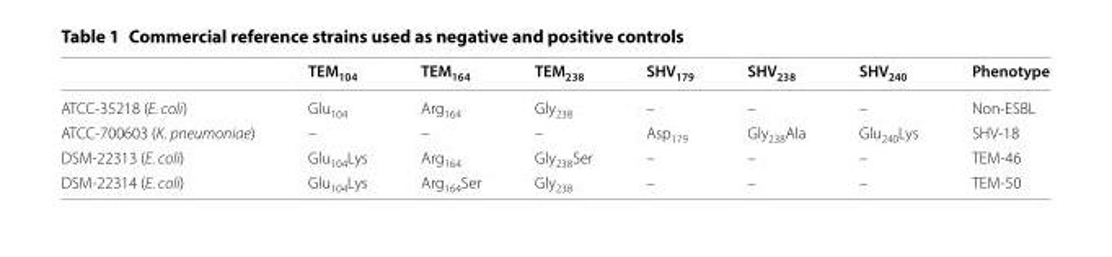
<table><thead><tr><td></td><td>TEM<sub>104</sub></td><td>TEM<sub>164</sub></td><td>TEM<sub>238</sub></td><td>SHV<sub>179</sub></td><td>SHV<sub>238</sub></td><td>SHV<sub>240</sub></td><td>Phenotype</td></tr></thead><tbody><tr><td>ATCC‑35218 (E. coli)</td><td>Glu<sub>104</sub></td><td>Arg<sub>164</sub></td><td>Gly<sub>238</sub></td><td>–</td><td>–</td><td>–</td><td>Non‑ESBL</td></tr><tr><td>ATCC‑700603 (K. pneumoniae)</td><td>–</td><td>–</td><td>–</td><td>Asp<sub>179</sub></td><td>Gly<sub>238</sub>Ala</td><td>Glu<sub>240</sub>Lys</td><td>SHV‑18</td></tr><tr><td>DSM‑22313 (E. coli)</td><td>Glu<sub>104</sub>Lys</td><td>Arg<sub>164</sub></td><td>Gly<sub>238</sub>Ser</td><td>–</td><td>–</td><td>–</td><td>TEM‑46</td></tr><tr><td>DSM‑22314 (E. coli)</td><td>Glu<sub>104</sub>Lys</td><td>Arg<sub>164</sub>Ser</td><td>Gly<sub>238</sub></td><td>–</td><td>–</td><td>–</td><td>TEM‑50</td></tr></tbody></table>